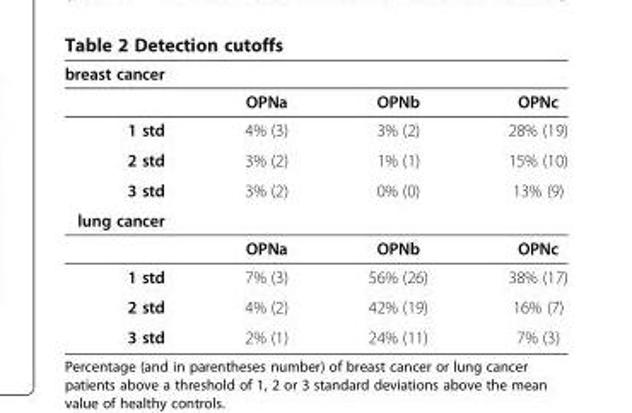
<table><thead><tr><td>breast cancer</td><td></td><td></td><td></td></tr></thead><tbody><tr><td></td><td>OPNa</td><td>OPNb</td><td>OPNc</td></tr><tr><td>1 std</td><td>4% (3)</td><td>3% (2)</td><td>28% (19)</td></tr><tr><td>2 std</td><td>3% (2)</td><td>1% (1)</td><td>15% (10)</td></tr><tr><td>3 std</td><td>3% (2)</td><td>0% (0)</td><td>13% (9)</td></tr><tr><td colspan="4">lung cancer</td></tr><tr><td></td><td>OPNa</td><td>OPNb</td><td>OPNc</td></tr><tr><td>1 std</td><td>7% (3)</td><td>56% (26)</td><td>38% (17)</td></tr><tr><td>2 std</td><td>4% (2)</td><td>42% (19)</td><td>16% (7)</td></tr><tr><td>3 std</td><td>2% (1)</td><td>24% (11)</td><td>7% (3)</td></tr></tbody></table>